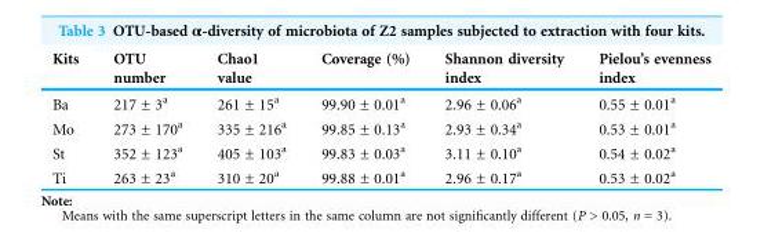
<table><thead><tr><td>Kits</td><td>OTU number</td><td>Chao1 value</td><td>Coverage (%)</td><td>Shannon diversity index</td><td>Pielou’s evenness index</td></tr></thead><tbody><tr><td>Ba</td><td>217 ± 3<sup>a</sup></td><td>261 ± 15<sup>a</sup></td><td>99.90 ± 0.01<sup>a</sup></td><td>2.96 ± 0.06<sup>a</sup></td><td>0.55 ± 0.01<sup>a</sup></td></tr><tr><td>Mo</td><td>273 ± 170<sup>a</sup></td><td>335 ± 216<sup>a</sup></td><td>99.85 ± 0.13<sup>a</sup></td><td>2.93 ± 0.34<sup>a</sup></td><td>0.53 ± 0.01<sup>a</sup></td></tr><tr><td>St</td><td>352 ± 123<sup>a</sup></td><td>405 ± 103<sup>a</sup></td><td>99.83 ± 0.03<sup>a</sup></td><td>3.11 ± 0.10<sup>a</sup></td><td>0.54 ± 0.02<sup>a</sup></td></tr><tr><td>Ti</td><td>263 ± 23<sup>a</sup></td><td>310 ± 20<sup>a</sup></td><td>99.88 ± 0.01<sup>a</sup></td><td>2.96 ± 0.17<sup>a</sup></td><td>0.53 ± 0.02<sup>a</sup></td></tr></tbody></table>